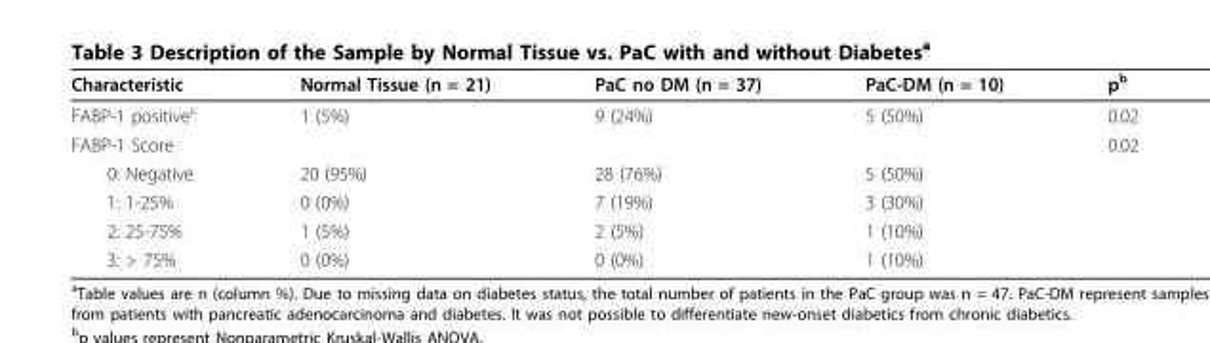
<table><thead><tr><td>Characteristic</td><td>Normal Tissue (n = 21)</td><td>PaC no DM (n = 37)</td><td>PaC-DM (n = 10)</td><td>p<sup>b</sup></td></tr></thead><tbody><tr><td>FABP-1 positive<sup>c</sup></td><td>1 (5%)</td><td>9 (24%)</td><td>5 (50%)</td><td>0.02</td></tr><tr><td>FABP-1 Score</td><td></td><td></td><td></td><td>0.02</td></tr><tr><td>0: Negative</td><td>20 (95%)</td><td>28 (76%)</td><td>5 (50%)</td><td></td></tr><tr><td>1: 1-25%</td><td>0 (0%)</td><td>7 (19%)</td><td>3 (30%)</td><td></td></tr><tr><td>2: 25-75%</td><td>1 (5%)</td><td>2 (5%)</td><td>1 (10%)</td><td></td></tr><tr><td>3: &gt; 75%</td><td>0 (0%)</td><td>0 (0%)</td><td>1 (10%)</td><td></td></tr></tbody></table>